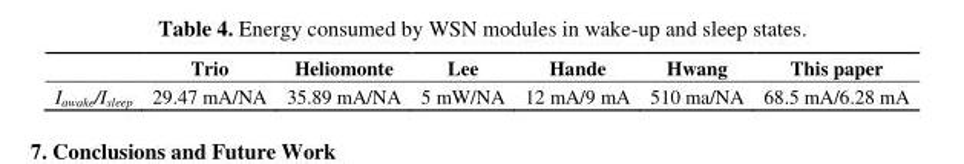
<table><thead><tr><td></td><td>Trio</td><td>Heliomonte</td><td>Lee</td><td>Hande</td><td>Hwang</td><td>This paper</td></tr></thead><tbody><tr><td>I<sub>awake</sub>/I<sub>sleep</sub></td><td>29.47 mA/NA</td><td>35.89 mA/NA</td><td>5 mW/NA</td><td>12 mA/9 mA</td><td>510 ma/NA</td><td>68.5 mA/6.28 mA</td></tr></tbody></table>